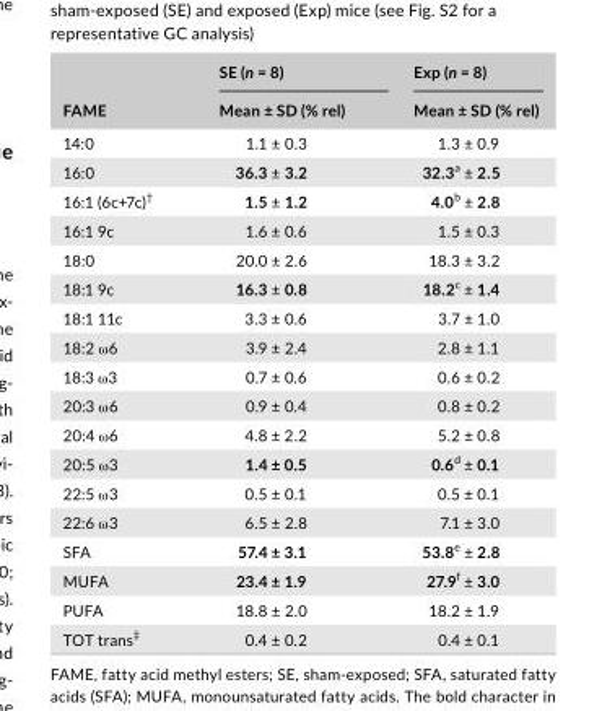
<table><thead><tr><td rowspan="2">FAME</td><td rowspan="2">SE (n = 8) Mean ± SD (% rel)</td><td rowspan="2">Exp (n = 8) Mean ± SD (% rel)</td></tr><tr></tr></thead><tbody><tr><td>14:0</td><td>1.1 ± 0.3</td><td>1.3 ± 0.9</td></tr><tr><td>16:0</td><td>36.3 ± 3.2</td><td>32.3a ± 2.5</td></tr><tr><td>16:1 (6c+7c)†</td><td>1.5 ± 1.2</td><td>4.0b ± 2.8</td></tr><tr><td>16:1 9c</td><td>1.6 ± 0.6</td><td>1.5 ± 0.3</td></tr><tr><td>18:0</td><td>20.0 ± 2.6</td><td>18.3 ± 3.2</td></tr><tr><td>18:1 9c</td><td>16.3 ± 0.8</td><td>18.2c ± 1.4</td></tr><tr><td>18:1 11c</td><td>3.3 ± 0.6</td><td>3.7 ± 1.0</td></tr><tr><td>18:2 ω6</td><td>3.9 ± 2.4</td><td>2.8 ± 1.1</td></tr><tr><td>18:3 ω3</td><td>0.7 ± 0.6</td><td>0.6 ± 0.2</td></tr><tr><td>20:3 ω6</td><td>0.9 ± 0.4</td><td>0.8 ± 0.2</td></tr><tr><td>20:4 ω6</td><td>4.8 ± 2.2</td><td>5.2 ± 0.8</td></tr><tr><td>20:5 ω3</td><td>1.4 ± 0.5</td><td>0.6d ± 0.1</td></tr><tr><td>22:5 ω3</td><td>0.5 ± 0.1</td><td>0.5 ± 0.1</td></tr><tr><td>22:6 ω3</td><td>6.5 ± 2.8</td><td>7.1 ± 3.0</td></tr><tr><td>SFA</td><td>57.4 ± 3.1</td><td>53.8e ± 2.8</td></tr><tr><td>MUFA</td><td>23.4 ± 1.9</td><td>27.9f ± 3.0</td></tr><tr><td>PUFA</td><td>18.8 ± 2.0</td><td>18.2 ± 1.9</td></tr><tr><td>TOT trans‡</td><td>0.4 ± 0.2</td><td>0.4 ± 0.1</td></tr></tbody></table>